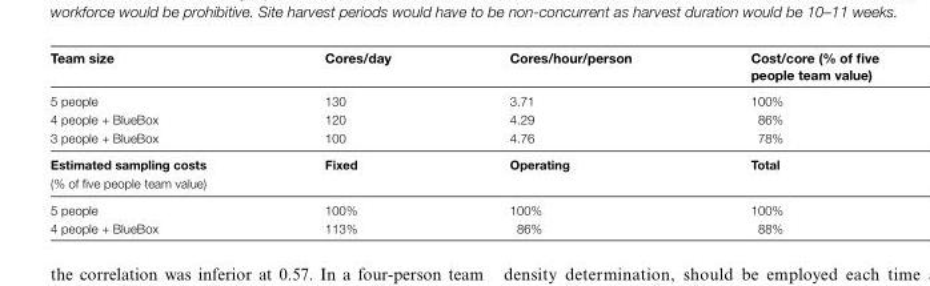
<table><thead><tr><td>Team size</td><td>Cores/day</td><td>Cores/hour/person</td><td>Cost/core (% of five people team value)</td></tr></thead><tbody><tr><td>5 people</td><td>130</td><td>3.71</td><td>100%</td></tr><tr><td>4 people + BlueBox</td><td>120</td><td>4.29</td><td>86%</td></tr><tr><td>3 people + BlueBox</td><td>100</td><td>4.76</td><td>78%</td></tr><tr><td>Estimated sampling costs (% of five people team value)</td><td>Fixed</td><td>Operating</td><td>Total</td></tr><tr><td>5 people</td><td>100%</td><td>100%</td><td>100%</td></tr><tr><td>4 people + BlueBox</td><td>113%</td><td>86%</td><td>88%</td></tr></tbody></table>